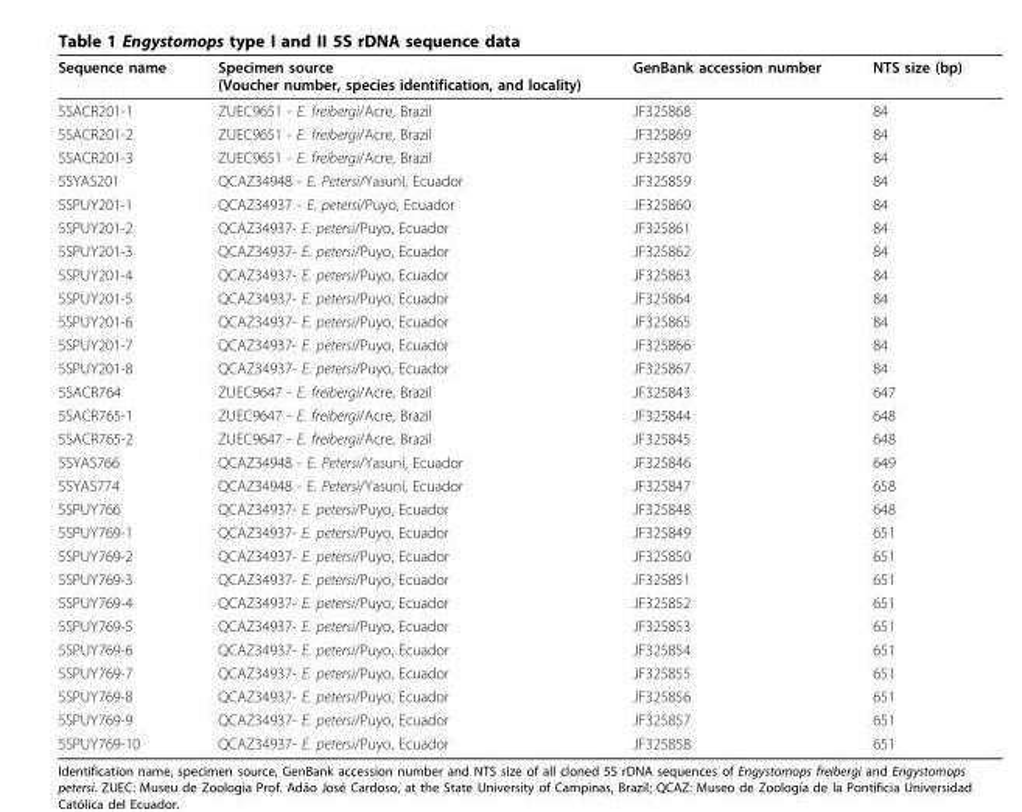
<table><thead><tr><td>Sequence name</td><td>Specimen source (Voucher number, species identification, and locality)</td><td>GenBank accession number</td><td>NTS size (bp)</td></tr></thead><tbody><tr><td>5SACR201-1</td><td>ZUEC9651 - E. freibergi/Acre, Brazil</td><td>JF325868</td><td>84</td></tr><tr><td>5SACR201-2</td><td>ZUEC9651 - E. freibergi/Acre, Brazil</td><td>JF325869</td><td>84</td></tr><tr><td>5SACR201-3</td><td>ZUEC9651 - E. freibergi/Acre, Brazil</td><td>JF325870</td><td>84</td></tr><tr><td>5SYAS201</td><td>QCAZ34948 - E. Petersi/Yasuní, Ecuador</td><td>JF325859</td><td>84</td></tr><tr><td>5SPUY201-1</td><td>QCAZ34937 - E. petersi/Puyo, Ecuador</td><td>JF325860</td><td>84</td></tr><tr><td>5SPUY201-2</td><td>QCAZ34937- E. petersi/Puyo, Ecuador</td><td>JF325861</td><td>84</td></tr><tr><td>5SPUY201-3</td><td>QCAZ34937- E. petersi/Puyo, Ecuador</td><td>JF325862</td><td>84</td></tr><tr><td>5SPUY201-4</td><td>QCAZ34937- E. petersi/Puyo, Ecuador</td><td>JF325863</td><td>84</td></tr><tr><td>5SPUY201-5</td><td>QCAZ34937- E. petersi/Puyo, Ecuador</td><td>JF325864</td><td>84</td></tr><tr><td>5SPUY201-6</td><td>QCAZ34937- E. petersi/Puyo, Ecuador</td><td>JF325865</td><td>84</td></tr><tr><td>5SPUY201-7</td><td>QCAZ34937- E. petersi/Puyo, Ecuador</td><td>JF325866</td><td>84</td></tr><tr><td>5SPUY201-8</td><td>QCAZ34937- E. petersi/Puyo, Ecuador</td><td>JF325867</td><td>84</td></tr><tr><td>5SACR764</td><td>ZUEC9647 - E. freibergi/Acre, Brazil</td><td>JF325843</td><td>647</td></tr><tr><td>5SACR765-1</td><td>ZUEC9647 - E. freibergi/Acre, Brazil</td><td>JF325844</td><td>648</td></tr><tr><td>5SACR765-2</td><td>ZUEC9647 - E. freibergi/Acre, Brazil</td><td>JF325845</td><td>648</td></tr><tr><td>5SYAS766</td><td>QCAZ34948 - E. Petersi/Yasuní, Ecuador</td><td>JF325846</td><td>649</td></tr><tr><td>5SYAS774</td><td>QCAZ34948 - E. Petersi/Yasuní, Ecuador</td><td>JF325847</td><td>658</td></tr><tr><td>5SPUY766</td><td>QCAZ34937- E. petersi/Puyo, Ecuador</td><td>JF325848</td><td>648</td></tr><tr><td>5SPUY769-1</td><td>QCAZ34937- E. petersi/Puyo, Ecuador</td><td>JF325849</td><td>651</td></tr><tr><td>5SPUY769-2</td><td>QCAZ34937- E. petersi/Puyo, Ecuador</td><td>JF325850</td><td>651</td></tr><tr><td>5SPUY769-3</td><td>QCAZ34937- E. petersi/Puyo, Ecuador</td><td>JF325851</td><td>651</td></tr><tr><td>5SPUY769-4</td><td>QCAZ34937- E. petersi/Puyo, Ecuador</td><td>JF325852</td><td>651</td></tr><tr><td>5SPUY769-5</td><td>QCAZ34937- E. petersi/Puyo, Ecuador</td><td>JF325853</td><td>651</td></tr><tr><td>5SPUY769-6</td><td>QCAZ34937- E. petersi/Puyo, Ecuador</td><td>JF325854</td><td>651</td></tr><tr><td>5SPUY769-7</td><td>QCAZ34937- E. petersi/Puyo, Ecuador</td><td>JF325855</td><td>651</td></tr><tr><td>5SPUY769-8</td><td>QCAZ34937- E. petersi/Puyo, Ecuador</td><td>JF325856</td><td>651</td></tr><tr><td>5SPUY769-9</td><td>QCAZ34937- E. petersi/Puyo, Ecuador</td><td>JF325857</td><td>651</td></tr><tr><td>5SPUY769-10</td><td>QCAZ34937- E. petersi/Puyo, Ecuador</td><td>JF325858</td><td>651</td></tr></tbody></table>